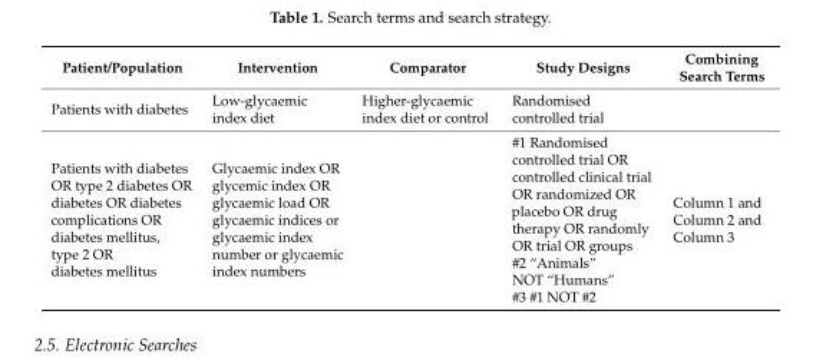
<table><thead><tr><td>Patient/Population</td><td>Intervention</td><td>Comparator</td><td>Study Designs</td><td>Combining Search Terms</td></tr></thead><tbody><tr><td>Patients with diabetes</td><td>Low-glycaemic index diet</td><td>Higher-glycaemic index diet or control</td><td>Randomised controlled trial</td><td></td></tr><tr><td>Patients with diabetes OR type 2 diabetes OR diabetes OR diabetes complications OR diabetes mellitus, type 2 OR diabetes mellitus</td><td>Glycaemic index OR glycemic index OR glycaemic load OR glycaemic indices or glycaemic index number or glycaemic index numbers</td><td></td><td>#1 Randomised controlled trial OR controlled clinical trial OR randomized OR placebo OR drug therapy OR randomly OR trial OR groups #2 “Animals” NOT “Humans” #3 #1 NOT #2</td><td>Column 1 and Column 2 and Column 3</td></tr></tbody></table>